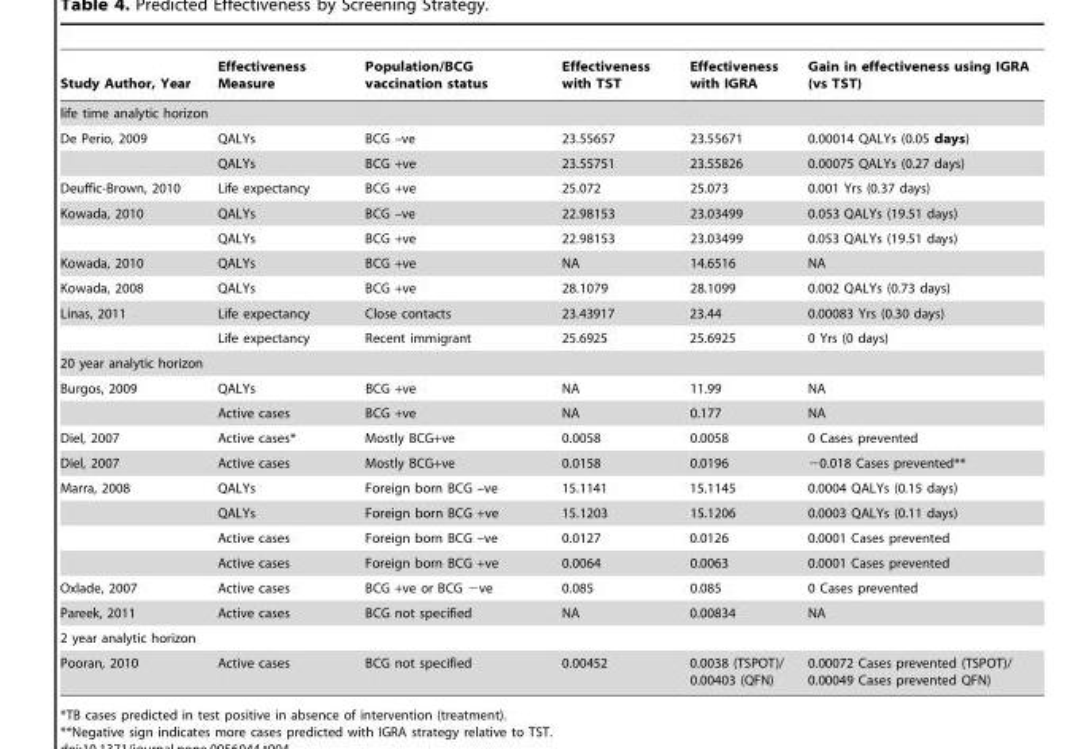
<table><thead><tr><td>Study Author, Year</td><td>Effectiveness Measure</td><td>Population/BCG vaccination status</td><td>Effectiveness with TST</td><td>Effectiveness with IGRA</td><td>Gain in effectiveness using IGRA (vs TST)</td></tr></thead><tbody><tr><td colspan="6">life time analytic horizon</td></tr><tr><td rowspan="2">De Perio, 2009</td><td>QALYs</td><td>BCG –ve</td><td>23.55657</td><td>23.55671</td><td>0.00014 QALYs (0.05 days)</td></tr><tr><td>QALYs</td><td>BCG +ve</td><td>23.55751</td><td>23.55826</td><td>0.00075 QALYs (0.27 days)</td></tr><tr><td>Deuffic-Brown, 2010</td><td>Life expectancy</td><td>BCG +ve</td><td>25.072</td><td>25.073</td><td>0.001 Yrs (0.37 days)</td></tr><tr><td rowspan="2">Kowada, 2010</td><td>QALYs</td><td>BCG –ve</td><td>22.98153</td><td>23.03499</td><td>0.053 QALYs (19.51 days)</td></tr><tr><td>QALYs</td><td>BCG +ve</td><td>22.98153</td><td>23.03499</td><td>0.053 QALYs (19.51 days)</td></tr><tr><td>Kowada, 2010</td><td>QALYs</td><td>BCG +ve</td><td>NA</td><td>14.6516</td><td>NA</td></tr><tr><td>Kowada, 2008</td><td>QALYs</td><td>BCG +ve</td><td>28.1079</td><td>28.1099</td><td>0.002 QALYs (0.73 days)</td></tr><tr><td rowspan="2">Linas, 2011</td><td>Life expectancy</td><td>Close contacts</td><td>23.43917</td><td>23.44</td><td>0.00083 Yrs (0.30 days)</td></tr><tr><td>Life expectancy</td><td>Recent immigrant</td><td>25.6925</td><td>25.6925</td><td>0 Yrs (0 days)</td></tr><tr><td colspan="6">20 year analytic horizon</td></tr><tr><td rowspan="2">Burgos, 2009</td><td>QALYs</td><td>BCG +ve</td><td>NA</td><td>11.99</td><td>NA</td></tr><tr><td>Active cases</td><td>BCG +ve</td><td>NA</td><td>0.177</td><td>NA</td></tr><tr><td>Diel, 2007</td><td>Active cases*</td><td>Mostly BCG+ve</td><td>0.0058</td><td>0.0058</td><td>0 Cases prevented</td></tr><tr><td>Diel, 2007</td><td>Active cases</td><td>Mostly BCG+ve</td><td>0.0158</td><td>0.0196</td><td>−0.018 Cases prevented**</td></tr><tr><td rowspan="4">Marra, 2008</td><td>QALYs</td><td>Foreign born BCG –ve</td><td>15.1141</td><td>15.1145</td><td>0.0004 QALYs (0.15 days)</td></tr><tr><td>QALYs</td><td>Foreign born BCG +ve</td><td>15.1203</td><td>15.1206</td><td>0.0003 QALYs (0.11 days)</td></tr><tr><td>Active cases</td><td>Foreign born BCG –ve</td><td>0.0127</td><td>0.0126</td><td>0.0001 Cases prevented</td></tr><tr><td>Active cases</td><td>Foreign born BCG +ve</td><td>0.0064</td><td>0.0063</td><td>0.0001 Cases prevented</td></tr><tr><td>Oxlade, 2007</td><td>Active cases</td><td>BCG +ve or BCG −ve</td><td>0.085</td><td>0.085</td><td>0 Cases prevented</td></tr><tr><td>Pareek, 2011</td><td>Active cases</td><td>BCG not specified</td><td>NA</td><td>0.00834</td><td>NA</td></tr><tr><td colspan="6">2 year analytic horizon</td></tr><tr><td>Pooran, 2010</td><td>Active cases</td><td>BCG not specified</td><td>0.00452</td><td>0.0038 (TSPOT)/ 0.00403 (QFN)</td><td>0.00072 Cases prevented (TSPOT)/ 0.00049 Cases prevented QFN)</td></tr></tbody></table>